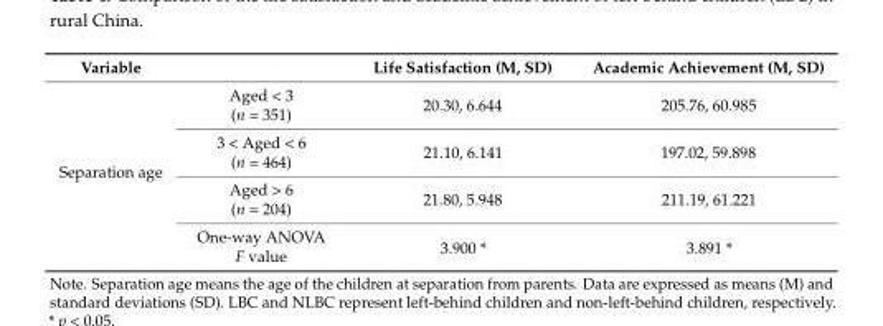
<table><thead><tr><td>Variable</td><td></td><td>Life Satisfaction (M, SD)</td><td>Academic Achievement (M, SD)</td></tr></thead><tbody><tr><td rowspan="8">Separation age</td><td>Aged &lt; 3</td><td rowspan="2">20.30, 6.644</td><td rowspan="2">205.76, 60.985</td></tr><tr><td>(n = 351)</td></tr><tr><td>3 &lt; Aged &lt; 6</td><td rowspan="2">21.10, 6.141</td><td rowspan="2">197.02, 59.898</td></tr><tr><td>(n = 464)</td></tr><tr><td>Aged &gt; 6</td><td rowspan="2">21.80, 5.948</td><td rowspan="2">211.19, 61.221</td></tr><tr><td>(n = 204)</td></tr><tr><td>One-way ANOVA</td><td rowspan="2">3.900 *</td><td rowspan="2">3.891 *</td></tr><tr><td>F value</td></tr></tbody></table>